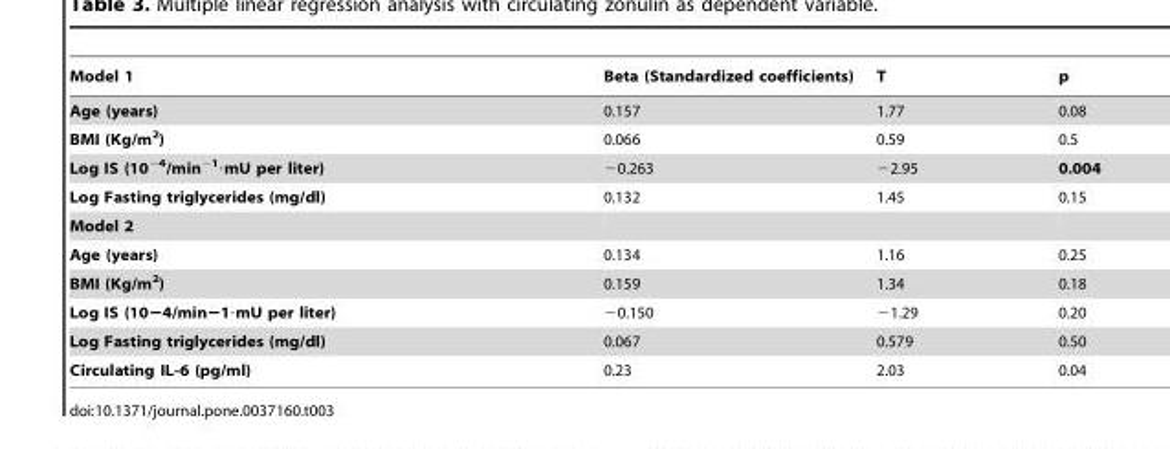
<table><thead><tr><td>Model 1</td><td>Beta (Standardized coefficients)</td><td>T</td><td>p</td></tr></thead><tbody><tr><td>Age (years)</td><td>0.157</td><td>1.77</td><td>0.08</td></tr><tr><td>BMI (Kg/m<sup>2</sup>)</td><td>0.066</td><td>0.59</td><td>0.5</td></tr><tr><td>Log IS (10<sup>−4</sup>/min<sup>−1</sup>·mU per liter)</td><td>−0.263</td><td>−2.95</td><td>0.004</td></tr><tr><td>Log Fasting triglycerides (mg/dl)</td><td>0.132</td><td>1.45</td><td>0.15</td></tr><tr><td colspan="4">Model 2</td></tr><tr><td>Age (years)</td><td>0.134</td><td>1.16</td><td>0.25</td></tr><tr><td>BMI (Kg/m<sup>2</sup>)</td><td>0.159</td><td>1.34</td><td>0.18</td></tr><tr><td>Log IS (10−4/min−1·mU per liter)</td><td>−0.150</td><td>−1.29</td><td>0.20</td></tr><tr><td>Log Fasting triglycerides (mg/dl)</td><td>0.067</td><td>0.579</td><td>0.50</td></tr><tr><td>Circulating IL-6 (pg/ml)</td><td>0.23</td><td>2.03</td><td>0.04</td></tr></tbody></table>